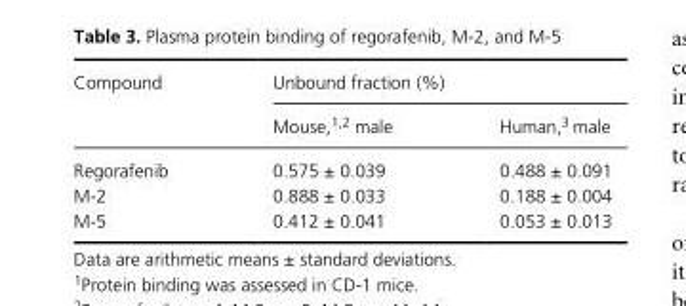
<table><thead><tr><td rowspan="2">Compound</td><td colspan="2">Unbound fraction (%)</td></tr><tr><td>Mouse,1,2 male</td><td>Human,3 male</td></tr></thead><tbody><tr><td>Regorafenib</td><td>0.575 ± 0.039</td><td>0.488 ± 0.091</td></tr><tr><td>M- 2</td><td>0.888 ± 0.033</td><td>0.188 ± 0.004</td></tr><tr><td>M- 5</td><td>0.412 ± 0.041</td><td>0.053 ± 0.013</td></tr></tbody></table>